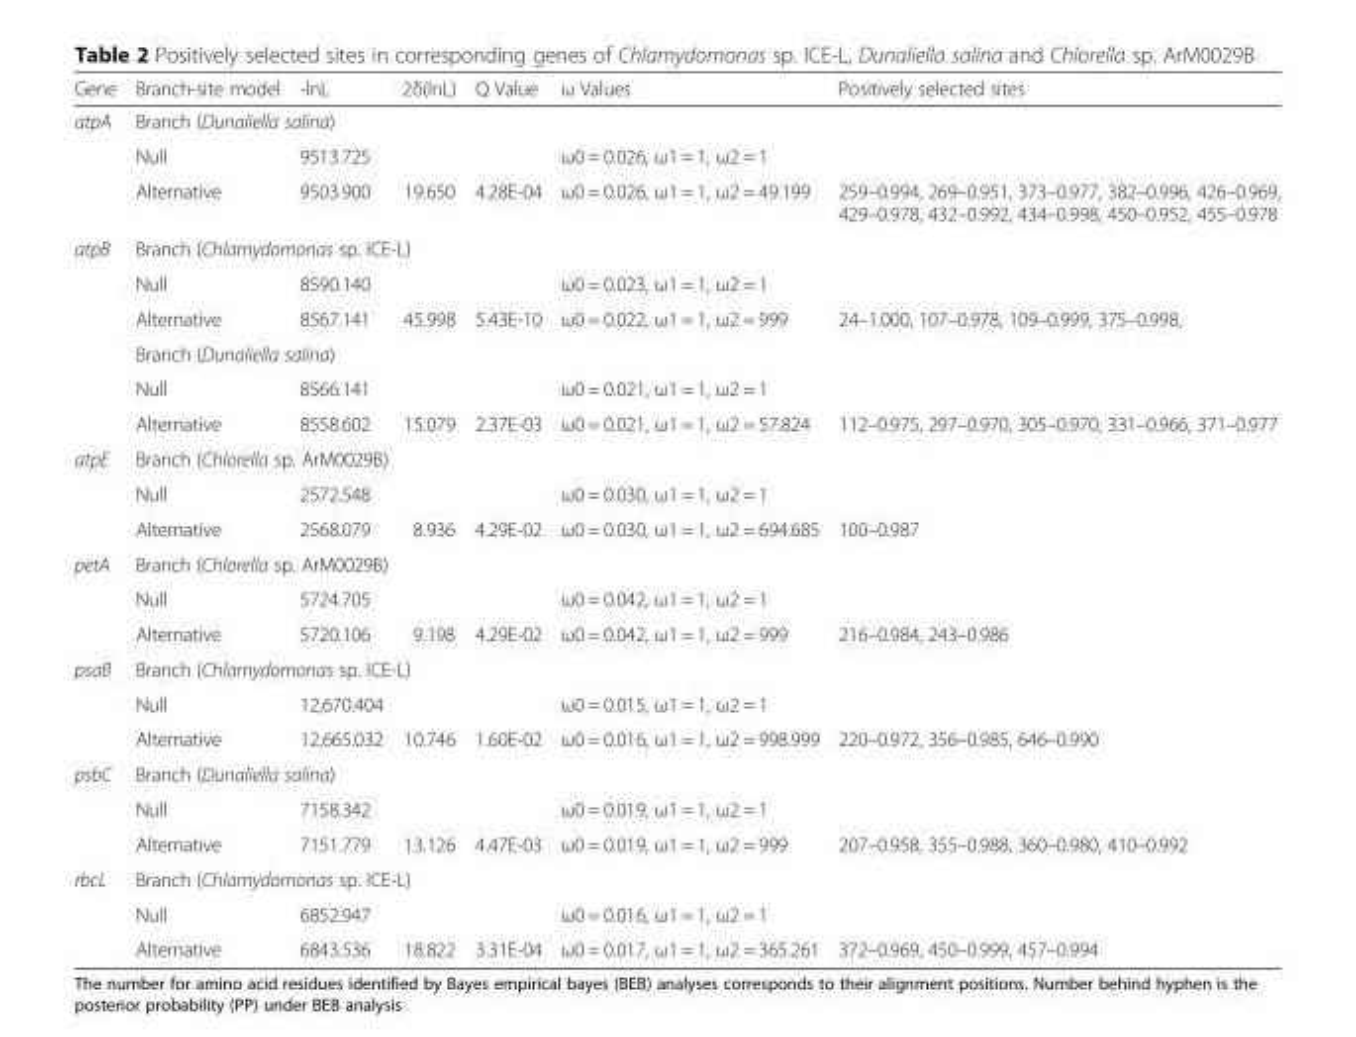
<table><thead><tr><td>Gene</td><td>Branch-site model</td><td>-lnL</td><td>2δ(lnL)</td><td>Q Value</td><td>ω Values</td><td>Positively selected sites</td></tr></thead><tbody><tr><td rowspan="3">atpA</td><td colspan="3">Branch (Dunaliella salina)</td><td></td><td></td><td></td></tr><tr><td>Null</td><td>9513.725</td><td></td><td></td><td>ω0 = 0.026, ω1 = 1, ω2 = 1</td><td></td></tr><tr><td>Alternative</td><td>9503.900</td><td>19.650</td><td>4.28E-04</td><td>ω0 = 0.026, ω1 = 1, ω2 = 49.199</td><td>259–0.994, 269–0.951, 373–0.977, 382–0.996, 426–0.969, 429–0.978, 432–0.992, 434–0.998, 450–0.952, 455–0.978</td></tr><tr><td rowspan="6">atpB</td><td colspan="3">Branch (Chlamydomonas sp. ICE-L)</td><td></td><td></td><td></td></tr><tr><td>Null</td><td>8590.140</td><td></td><td></td><td>ω0 = 0.023, ω1 = 1, ω2 = 1</td><td></td></tr><tr><td>Alternative</td><td>8567.141</td><td>45.998</td><td>5.43E-10</td><td>ω0 = 0.022, ω1 = 1, ω2 = 999</td><td>24–1.000, 107–0.978, 109–0.999, 375–0.998,</td></tr><tr><td colspan="3">Branch (Dunaliella salina)</td><td></td><td></td><td></td></tr><tr><td>Null</td><td>8566.141</td><td></td><td></td><td>ω0 = 0.021, ω1 = 1, ω2 = 1</td><td></td></tr><tr><td>Alternative</td><td>8558.602</td><td>15.079</td><td>2.37E-03</td><td>ω0 = 0.021, ω1 = 1, ω2 = 57.824</td><td>112–0.975, 297–0.970, 305–0.970, 331–0.966, 371–0.977</td></tr><tr><td rowspan="3">atpE</td><td colspan="3">Branch (Chlorella sp. ArM0029B)</td><td></td><td></td><td></td></tr><tr><td>Null</td><td>2572.548</td><td></td><td></td><td>ω0 = 0.030, ω1 = 1, ω2 = 1</td><td></td></tr><tr><td>Alternative</td><td>2568.079</td><td>8.936</td><td>4.29E-02</td><td>ω0 = 0.030, ω1 = 1, ω2 = 694.685</td><td>100–0.987</td></tr><tr><td rowspan="3">petA</td><td colspan="3">Branch (Chlorella sp. ArM0029B)</td><td></td><td></td><td></td></tr><tr><td>Null</td><td>5724.705</td><td></td><td></td><td>ω0 = 0.042, ω1 = 1, ω2 = 1</td><td></td></tr><tr><td>Alternative</td><td>5720.106</td><td>9.198</td><td>4.29E-02</td><td>ω0 = 0.042, ω1 = 1, ω2 = 999</td><td>216–0.984, 243–0.986</td></tr><tr><td rowspan="3">psaB</td><td colspan="3">Branch (Chlamydomonas sp. ICE-L)</td><td></td><td></td><td></td></tr><tr><td>Null</td><td>12,670.404</td><td></td><td></td><td>ω0 = 0.015, ω1 = 1, ω2 = 1</td><td></td></tr><tr><td>Alternative</td><td>12,665.032</td><td>10.746</td><td>1.60E-02</td><td>ω0 = 0.016, ω1 = 1, ω2 = 998.999</td><td>220–0.972, 356–0.985, 646–0.990</td></tr><tr><td rowspan="3">psbC</td><td colspan="3">Branch (Dunaliella salina)</td><td></td><td></td><td></td></tr><tr><td>Null</td><td>7158.342</td><td></td><td></td><td>ω0 = 0.019, ω1 = 1, ω2 = 1</td><td></td></tr><tr><td>Alternative</td><td>7151.779</td><td>13.126</td><td>4.47E-03</td><td>ω0 = 0.019, ω1 = 1, ω2 = 999</td><td>207–0.958, 355–0.988, 360–0.980, 410–0.992</td></tr><tr><td rowspan="3">rbcL</td><td colspan="3">Branch (Chlamydomonas sp. ICE-L)</td><td></td><td></td><td></td></tr><tr><td>Null</td><td>6852.947</td><td></td><td></td><td>ω0 = 0.016, ω1 = 1, ω2 = 1</td><td></td></tr><tr><td>Alternative</td><td>6843.536</td><td>18.822</td><td>3.31E-04</td><td>ω0 = 0.017, ω1 = 1, ω2 = 365.261</td><td>372–0.969, 450–0.999, 457–0.994</td></tr></tbody></table>